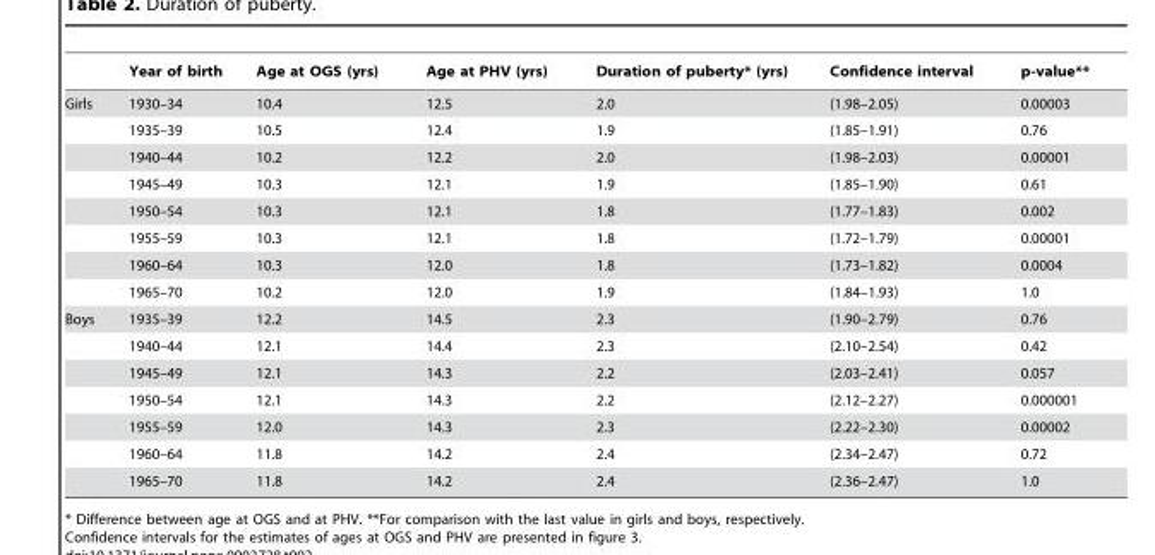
<table><thead><tr><td></td><td>Year of birth</td><td>Age at OGS (yrs)</td><td>Age at PHV (yrs)</td><td>Duration of puberty* (yrs)</td><td>Confidence interval</td><td>p-value**</td></tr></thead><tbody><tr><td rowspan="8">Girls</td><td>1930–34</td><td>10.4</td><td>12.5</td><td>2.0</td><td>(1.98–2.05)</td><td>0.00003</td></tr><tr><td>1935–39</td><td>10.5</td><td>12.4</td><td>1.9</td><td>(1.85–1.91)</td><td>0.76</td></tr><tr><td>1940–44</td><td>10.2</td><td>12.2</td><td>2.0</td><td>(1.98–2.03)</td><td>0.00001</td></tr><tr><td>1945–49</td><td>10.3</td><td>12.1</td><td>1.9</td><td>(1.85–1.90)</td><td>0.61</td></tr><tr><td>1950–54</td><td>10.3</td><td>12.1</td><td>1.8</td><td>(1.77–1.83)</td><td>0.002</td></tr><tr><td>1955–59</td><td>10.3</td><td>12.1</td><td>1.8</td><td>(1.72–1.79)</td><td>0.00001</td></tr><tr><td>1960–64</td><td>10.3</td><td>12.0</td><td>1.8</td><td>(1.73–1.82)</td><td>0.0004</td></tr><tr><td>1965–70</td><td>10.2</td><td>12.0</td><td>1.9</td><td>(1.84–1.93)</td><td>1.0</td></tr><tr><td rowspan="7">Boys</td><td>1935–39</td><td>12.2</td><td>14.5</td><td>2.3</td><td>(1.90–2.79)</td><td>0.76</td></tr><tr><td>1940–44</td><td>12.1</td><td>14.4</td><td>2.3</td><td>(2.10–2.54)</td><td>0.42</td></tr><tr><td>1945–49</td><td>12.1</td><td>14.3</td><td>2.2</td><td>(2.03–2.41)</td><td>0.057</td></tr><tr><td>1950–54</td><td>12.1</td><td>14.3</td><td>2.2</td><td>(2.12–2.27)</td><td>0.000001</td></tr><tr><td>1955–59</td><td>12.0</td><td>14.3</td><td>2.3</td><td>(2.22–2.30)</td><td>0.00002</td></tr><tr><td>1960–64</td><td>11.8</td><td>14.2</td><td>2.4</td><td>(2.34–2.47)</td><td>0.72</td></tr><tr><td>1965–70</td><td>11.8</td><td>14.2</td><td>2.4</td><td>(2.36–2.47)</td><td>1.0</td></tr></tbody></table>